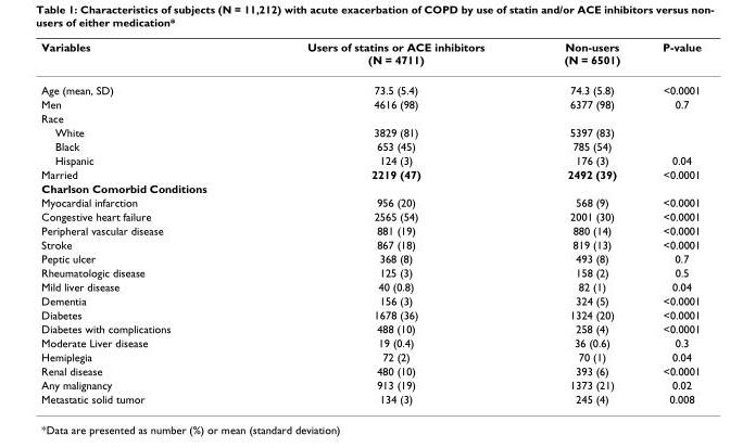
<table><thead><tr><td>Variables</td><td>Users of statins or ACE inhibitors (N = 4711)</td><td>Non-users (N = 6501)</td><td>P-value</td></tr></thead><tbody><tr><td>Age (mean, SD)</td><td>73.5 (5.4)</td><td>74.3 (5.8)</td><td>&lt;0.0001</td></tr><tr><td>Men</td><td>4616 (98)</td><td>6377 (98)</td><td>0.7</td></tr><tr><td colspan="4">Race</td></tr><tr><td>White</td><td>3829 (81)</td><td>5397 (83)</td><td></td></tr><tr><td>Black</td><td>653 (45)</td><td>785 (54)</td><td></td></tr><tr><td>Hispanic</td><td>124 (3)</td><td>176 (3)</td><td>0.04</td></tr><tr><td>Married</td><td>2219 (47)</td><td>2492 (39)</td><td>&lt;0.0001</td></tr><tr><td colspan="4">Charlson Comorbid Conditions</td></tr><tr><td>Myocardial infarction</td><td>956 (20)</td><td>568 (9)</td><td>&lt;0.0001</td></tr><tr><td>Congestive heart failure</td><td>2565 (54)</td><td>2001 (30)</td><td>&lt;0.0001</td></tr><tr><td>Peripheral vascular disease</td><td>881 (19)</td><td>880 (14)</td><td>&lt;0.0001</td></tr><tr><td>Stroke</td><td>867 (18)</td><td>819 (13)</td><td>&lt;0.0001</td></tr><tr><td>Peptic ulcer</td><td>368 (8)</td><td>493 (8)</td><td>0.7</td></tr><tr><td>Rheumatologic disease</td><td>125 (3)</td><td>158 (2)</td><td>0.5</td></tr><tr><td>Mild liver disease</td><td>40 (0.8)</td><td>82 (1)</td><td>0.04</td></tr><tr><td>Dementia</td><td>156 (3)</td><td>324 (5)</td><td>&lt;0.0001</td></tr><tr><td>Diabetes</td><td>1678 (36)</td><td>1324 (20)</td><td>&lt;0.0001</td></tr><tr><td>Diabetes with complications</td><td>488 (10)</td><td>258 (4)</td><td>&lt;0.0001</td></tr><tr><td>Moderate Liver disease</td><td>19 (0.4)</td><td>36 (0.6)</td><td>0.3</td></tr><tr><td>Hemiplegia</td><td>72 (2)</td><td>70 (1)</td><td>0.04</td></tr><tr><td>Renal disease</td><td>480 (10)</td><td>393 (6)</td><td>&lt;0.0001</td></tr><tr><td>Any malignancy</td><td>913 (19)</td><td>1373 (21)</td><td>0.02</td></tr><tr><td>Metastatic solid tumor</td><td>134 (3)</td><td>245 (4)</td><td>0.008</td></tr></tbody></table>